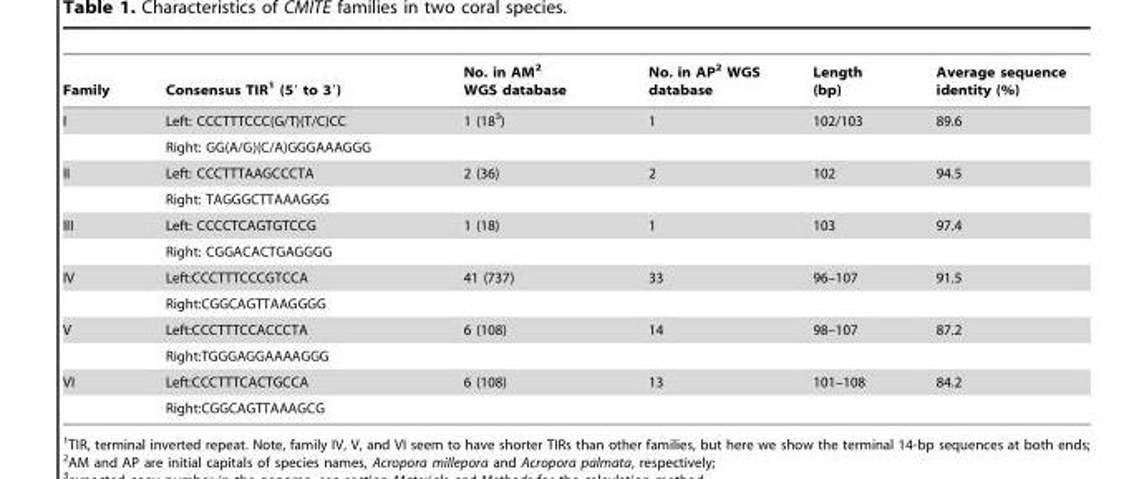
<table><thead><tr><td>Family</td><td>Consensus TIR<sup>1</sup> (5′ to 3′)</td><td>No. in AM<sup>2</sup> WGS database</td><td>No. in AP<sup>2</sup> WGS database</td><td>Length (bp)</td><td>Average sequence identity (%)</td></tr></thead><tbody><tr><td rowspan="2">I</td><td>Left: CCCTTTCCC(G/T)(T/C)CC</td><td>1 (18<sup>3</sup>)</td><td>1</td><td>102/103</td><td>89.6</td></tr><tr><td>Right: GG(A/G)(C/A)GGGAAAGGG</td><td></td><td></td><td></td><td></td></tr><tr><td rowspan="2">II</td><td>Left: CCCTTTAAGCCCTA</td><td>2 (36)</td><td>2</td><td>102</td><td>94.5</td></tr><tr><td>Right: TAGGGCTTAAAGGG</td><td></td><td></td><td></td><td></td></tr><tr><td rowspan="2">III</td><td>Left: CCCCTCAGTGTCCG</td><td>1 (18)</td><td>1</td><td>103</td><td>97.4</td></tr><tr><td>Right: CGGACACTGAGGGG</td><td></td><td></td><td></td><td></td></tr><tr><td rowspan="2">IV</td><td>Left:CCCTTTCCCGTCCA</td><td>41 (737)</td><td>33</td><td>96–107</td><td>91.5</td></tr><tr><td>Right:CGGCAGTTAAGGGG</td><td></td><td></td><td></td><td></td></tr><tr><td rowspan="2">V</td><td>Left:CCCTTTCCACCCTA</td><td>6 (108)</td><td>14</td><td>98–107</td><td>87.2</td></tr><tr><td>Right:TGGGAGGAAAAGGG</td><td></td><td></td><td></td><td></td></tr><tr><td rowspan="2">VI</td><td>Left:CCCTTTCACTGCCA</td><td>6 (108)</td><td>13</td><td>101–108</td><td>84.2</td></tr><tr><td>Right:CGGCAGTTAAAGCG</td><td></td><td></td><td></td><td></td></tr></tbody></table>